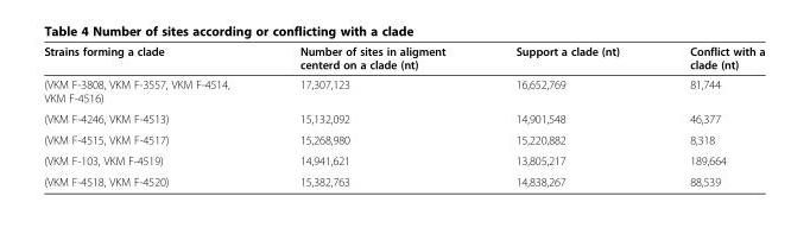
<table><thead><tr><td>Strains forming a clade</td><td>Number of sites in aligment centerd on a clade (nt)</td><td>Support a clade (nt)</td><td>Conflict with a clade (nt)</td></tr></thead><tbody><tr><td>(VKM F-3808, VKM F-3557, VKM F-4514, VKM F-4516)</td><td>17,307,123</td><td>16,652,769</td><td>81,744</td></tr><tr><td>(VKM F-4246, VKM F-4513)</td><td>15,132,092</td><td>14,901,548</td><td>46,377</td></tr><tr><td>(VKM F-4515, VKM F-4517)</td><td>15,268,980</td><td>15,220,882</td><td>8,318</td></tr><tr><td>(VKM F-103, VKM F-4519)</td><td>14,941,621</td><td>13,805,217</td><td>189,664</td></tr><tr><td>(VKM F-4518, VKM F-4520)</td><td>15,382,763</td><td>14,838,267</td><td>88,539</td></tr></tbody></table>